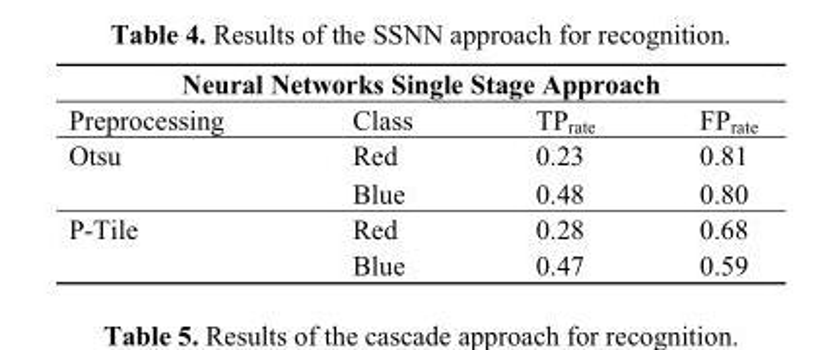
<table><thead><tr><td colspan="4">Neural Networks Single Stage Approach</td></tr><tr><td>Preprocessing</td><td>Class</td><td>TP<sub>rate</sub></td><td>FP<sub>rate</sub></td></tr></thead><tbody><tr><td rowspan="2">Otsu</td><td>Red</td><td>0.23</td><td>0.81</td></tr><tr><td>Blue</td><td>0.48</td><td>0.80</td></tr><tr><td rowspan="2">P-Tile</td><td>Red</td><td>0.28</td><td>0.68</td></tr><tr><td>Blue</td><td>0.47</td><td>0.59</td></tr></tbody></table>